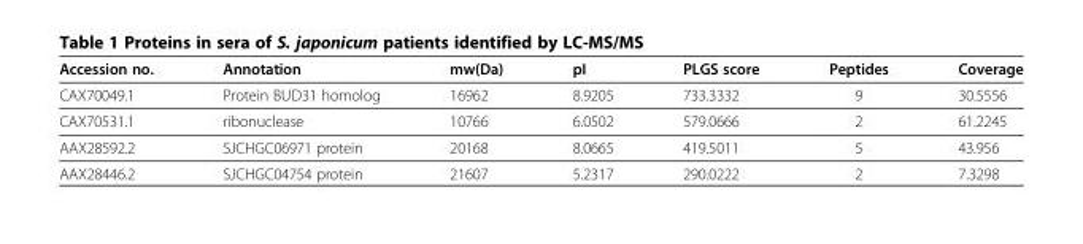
<table><thead><tr><td>Accession no.</td><td>Annotation</td><td>mw(Da)</td><td>pI</td><td>PLGS score</td><td>Peptides</td><td>Coverage</td></tr></thead><tbody><tr><td>CAX70049.1</td><td>Protein BUD31 homolog</td><td>16962</td><td>8.9205</td><td>733.3332</td><td>9</td><td>30.5556</td></tr><tr><td>CAX70531.1</td><td>ribonuclease</td><td>10766</td><td>6.0502</td><td>579.0666</td><td>2</td><td>61.2245</td></tr><tr><td>AAX28592.2</td><td>SJCHGC06971 protein</td><td>20168</td><td>8.0665</td><td>419.5011</td><td>5</td><td>43.956</td></tr><tr><td>AAX28446.2</td><td>SJCHGC04754 protein</td><td>21607</td><td>5.2317</td><td>290.0222</td><td>2</td><td>7.3298</td></tr></tbody></table>